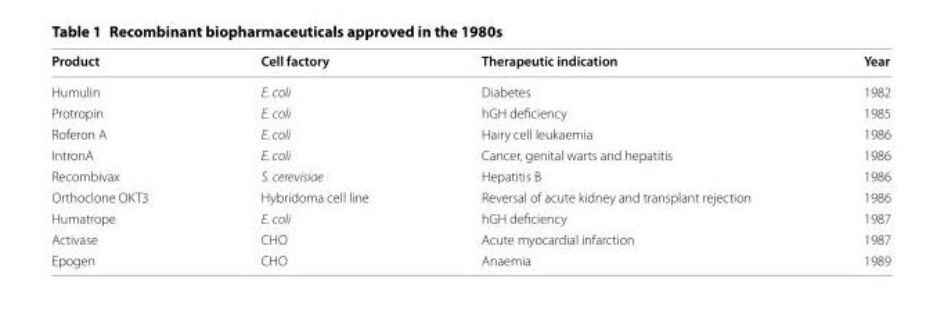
<table><thead><tr><td>Product</td><td>Cell factory</td><td>Therapeutic indication</td><td>Year</td></tr></thead><tbody><tr><td>Humulin</td><td>E. coli</td><td>Diabetes</td><td>1982</td></tr><tr><td>Protropin</td><td>E. coli</td><td>hGH deficiency</td><td>1985</td></tr><tr><td>Roferon A</td><td>E. coli</td><td>Hairy cell leukaemia</td><td>1986</td></tr><tr><td>IntronA</td><td>E. coli</td><td>Cancer, genital warts and hepatitis</td><td>1986</td></tr><tr><td>Recombivax</td><td>S. cerevisiae</td><td>Hepatitis B</td><td>1986</td></tr><tr><td>Orthoclone OKT3</td><td>Hybridoma cell line</td><td>Reversal of acute kidney and transplant rejection</td><td>1986</td></tr><tr><td>Humatrope</td><td>E. coli</td><td>hGH deficiency</td><td>1987</td></tr><tr><td>Activase</td><td>CHO</td><td>Acute myocardial infarction</td><td>1987</td></tr><tr><td>Epogen</td><td>CHO</td><td>Anaemia</td><td>1989</td></tr></tbody></table>